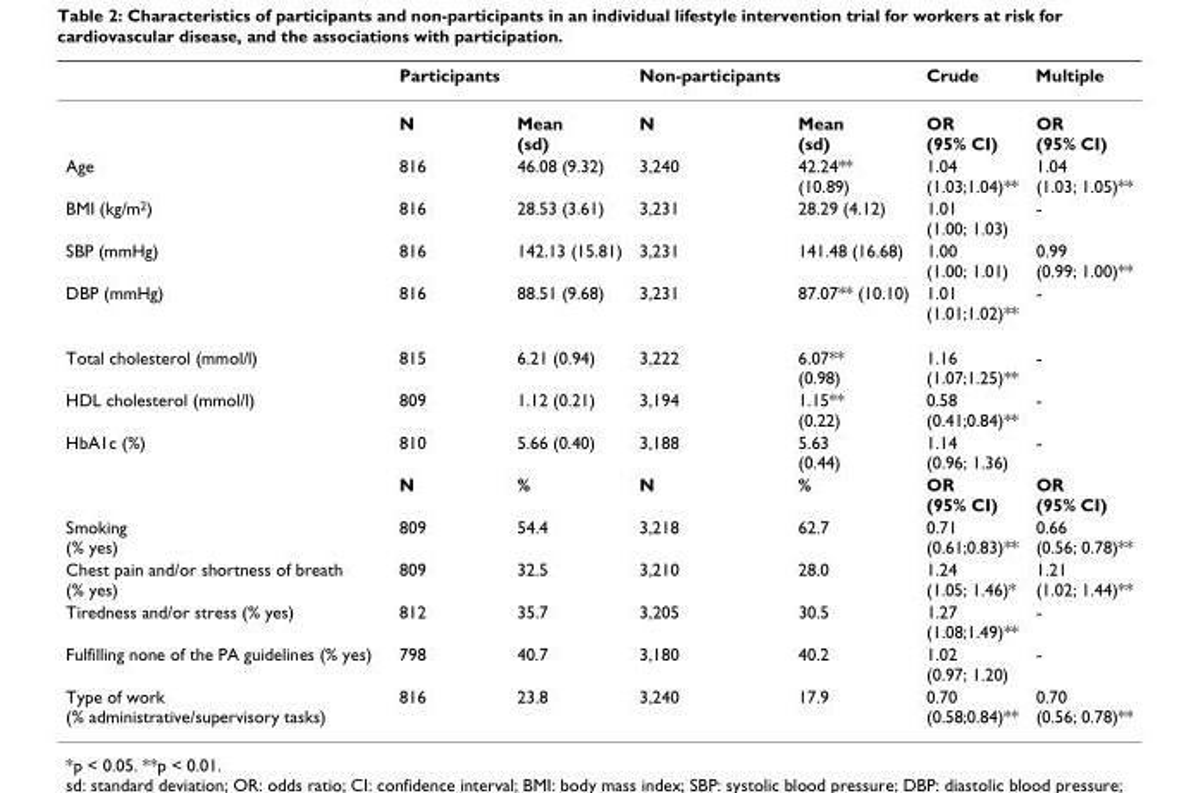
<table><thead><tr><td></td><td>Participants</td><td></td><td>Non-participants</td><td></td><td>Crude</td><td>Multiple</td></tr></thead><tbody><tr><td></td><td>N</td><td>Mean (sd)</td><td>N</td><td>Mean (sd)</td><td>OR (95% CI)</td><td>OR (95% CI)</td></tr><tr><td>Age</td><td>816</td><td>46.08 (9.32)</td><td>3,240</td><td>42.24** (10.89)</td><td>1.04 (1.03;1.04)**</td><td>1.04 (1.03; 1.05)**</td></tr><tr><td>BMI (kg/m<sup>2</sup>)</td><td>816</td><td>28.53 (3.61)</td><td>3,231</td><td>28.29 (4.12)</td><td>1.01 (1.00; 1.03)</td><td>-</td></tr><tr><td>SBP (mmHg)</td><td>816</td><td>142.13 (15.81)</td><td>3,231</td><td>141.48 (16.68)</td><td>1.00 (1.00; 1.01)</td><td>0.99 (0.99; 1.00)**</td></tr><tr><td>DBP (mmHg)</td><td>816</td><td>88.51 (9.68)</td><td>3,231</td><td>87.07** (10.10)</td><td>1.01 (1.01;1.02)**</td><td>-</td></tr><tr><td>Total cholesterol (mmol/l)</td><td>815</td><td>6.21 (0.94)</td><td>3,222</td><td>6.07** (0.98)</td><td>1.16 (1.07;1.25)**</td><td>-</td></tr><tr><td>HDL cholesterol (mmol/l)</td><td>809</td><td>1.12 (0.21)</td><td>3,194</td><td>1.15** (0.22)</td><td>0.58 (0.41;0.84)**</td><td>-</td></tr><tr><td rowspan="2">HbA1c (%)</td><td>810</td><td>5.66 (0.40)</td><td>3,188</td><td>5.63 (0.44)</td><td>1.14 (0.96; 1.36)</td><td>-</td></tr><tr><td>N</td><td>%</td><td>N</td><td>%</td><td>OR (95% CI)</td><td>OR (95% CI)</td></tr><tr><td>Smoking (% yes)</td><td>809</td><td>54.4</td><td>3,218</td><td>62.7</td><td>0.71 (0.61;0.83)**</td><td>0.66 (0.56; 0.78)**</td></tr><tr><td>Chest pain and/or shortness of breath (% yes)</td><td>809</td><td>32.5</td><td>3,210</td><td>28.0</td><td>1.24 (1.05; 1.46)*</td><td>1.21 (1.02; 1.44)**</td></tr><tr><td>Tiredness and/or stress (% yes)</td><td>812</td><td>35.7</td><td>3,205</td><td>30.5</td><td>1.27 (1.08;1.49)**</td><td>-</td></tr><tr><td>Fulfilling none of the PA guidelines (% yes)</td><td>798</td><td>40.7</td><td>3,180</td><td>40.2</td><td>1.02 (0.97; 1.20)</td><td>-</td></tr><tr><td>Type of work (% administrative/supervisory tasks)</td><td>816</td><td>23.8</td><td>3,240</td><td>17.9</td><td>0.70 (0.58;0.84)**</td><td>0.70 (0.56; 0.78)**</td></tr></tbody></table>